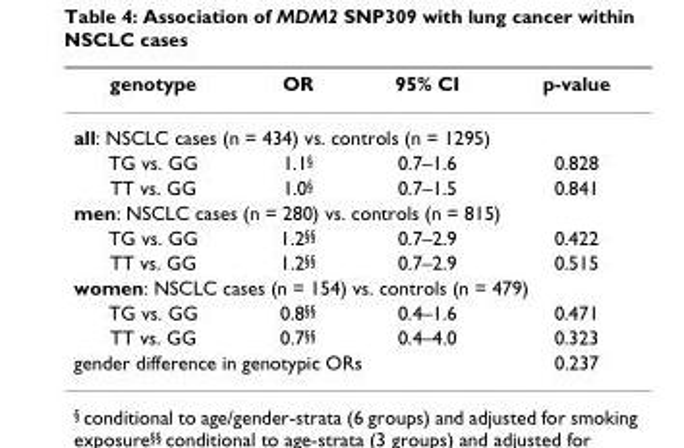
<table><thead><tr><td>genotype</td><td>OR</td><td>95% CI</td><td>p-value</td></tr></thead><tbody><tr><td colspan="4">all: NSCLC cases (n = 434) vs. controls (n = 1295)</td></tr><tr><td>TG vs. GG</td><td>1.1<sup>§</sup></td><td>0.7–1.6</td><td>0.828</td></tr><tr><td>TT vs. GG</td><td>1.0<sup>§</sup></td><td>0.7–1.5</td><td>0.841</td></tr><tr><td colspan="4">men: NSCLC cases (n = 280) vs. controls (n = 815)</td></tr><tr><td>TG vs. GG</td><td>1.2<sup>§§</sup></td><td>0.7–2.9</td><td>0.422</td></tr><tr><td>TT vs. GG</td><td>1.2<sup>§§</sup></td><td>0.7–2.9</td><td>0.515</td></tr><tr><td colspan="4">women: NSCLC cases (n = 154) vs. controls (n = 479)</td></tr><tr><td>TG vs. GG</td><td>0.8<sup>§§</sup></td><td>0.4–1.6</td><td>0.471</td></tr><tr><td>TT vs. GG</td><td>0.7<sup>§§</sup></td><td>0.4–4.0</td><td>0.323</td></tr><tr><td colspan="3">gender difference in genotypic ORs</td><td>0.237</td></tr></tbody></table>